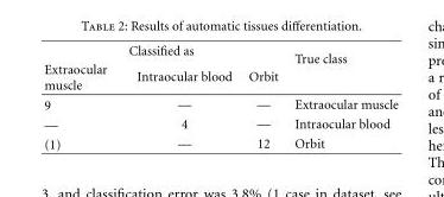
<table><thead><tr><td rowspan="2">Extraocular muscle</td><td rowspan="2">Classified as Intraocular blood</td><td rowspan="2">Orbit</td><td rowspan="2">True class</td></tr><tr></tr></thead><tbody><tr><td>9</td><td>—</td><td>—</td><td>Extraocular muscle</td></tr><tr><td>—</td><td>4</td><td>—</td><td>Intraocular blood</td></tr><tr><td>(1)</td><td>—</td><td>12</td><td>Orbit</td></tr></tbody></table>